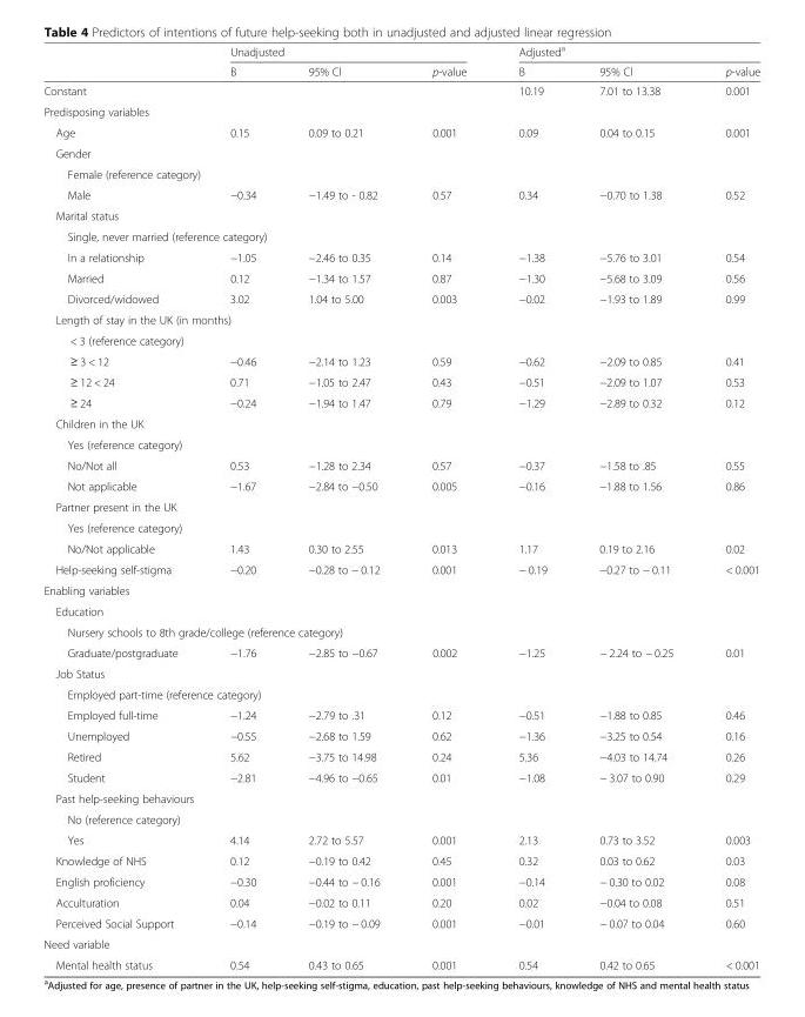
<table><thead><tr><td rowspan="2"></td><td colspan="3">Unadjusted</td><td colspan="3">Adjusted<sup>a</sup></td></tr><tr><td>Β</td><td>95% Cl</td><td>p-value</td><td>Β</td><td>95% Cl</td><td>p-value</td></tr></thead><tbody><tr><td>Constant</td><td></td><td></td><td></td><td>10.19</td><td>7.01 to 13.38</td><td>0.001</td></tr><tr><td colspan="7">Predisposing variables</td></tr><tr><td>Age</td><td>0.15</td><td>0.09 to 0.21</td><td>0.001</td><td>0.09</td><td>0.04 to 0.15</td><td>0.001</td></tr><tr><td colspan="7">Gender</td></tr><tr><td colspan="7">Female (reference category)</td></tr><tr><td>Male</td><td>−0.34</td><td>−1.49 to - 0.82</td><td>0.57</td><td>0.34</td><td>−0.70 to 1.38</td><td>0.52</td></tr><tr><td colspan="7">Marital status</td></tr><tr><td colspan="7">Single, never married (reference category)</td></tr><tr><td>In a relationship</td><td>−1.05</td><td>−2.46 to 0.35</td><td>0.14</td><td>−1.38</td><td>−5.76 to 3.01</td><td>0.54</td></tr><tr><td>Married</td><td>0.12</td><td>−1.34 to 1.57</td><td>0.87</td><td>−1.30</td><td>−5.68 to 3.09</td><td>0.56</td></tr><tr><td>Divorced/widowed</td><td>3.02</td><td>1.04 to 5.00</td><td>0.003</td><td>−0.02</td><td>−1.93 to 1.89</td><td>0.99</td></tr><tr><td colspan="7">Length of stay in the UK (in months)</td></tr><tr><td colspan="7">&lt; 3 (reference category)</td></tr><tr><td>≥ 3 &lt; 12</td><td>−0.46</td><td>−2.14 to 1.23</td><td>0.59</td><td>−0.62</td><td>−2.09 to 0.85</td><td>0.41</td></tr><tr><td>≥ 12 &lt; 24</td><td>0.71</td><td>−1.05 to 2.47</td><td>0.43</td><td>−0.51</td><td>−2.09 to 1.07</td><td>0.53</td></tr><tr><td>≥ 24</td><td>−0.24</td><td>−1.94 to 1.47</td><td>0.79</td><td>−1.29</td><td>−2.89 to 0.32</td><td>0.12</td></tr><tr><td colspan="7">Children in the UK</td></tr><tr><td colspan="7">Yes (reference category)</td></tr><tr><td>No/Not all</td><td>0.53</td><td>−1.28 to 2.34</td><td>0.57</td><td>−0.37</td><td>−1.58 to .85</td><td>0.55</td></tr><tr><td>Not applicable</td><td>−1.67</td><td>−2.84 to −0.50</td><td>0.005</td><td>−0.16</td><td>−1.88 to 1.56</td><td>0.86</td></tr><tr><td colspan="7">Partner present in the UK</td></tr><tr><td colspan="7">Yes (reference category)</td></tr><tr><td>No/Not applicable</td><td>1.43</td><td>0.30 to 2.55</td><td>0.013</td><td>1.17</td><td>0.19 to 2.16</td><td>0.02</td></tr><tr><td>Help-seeking self-stigma</td><td>−0.20</td><td>−0.28 to − 0.12</td><td>0.001</td><td>− 0.19</td><td>−0.27 to − 0.11</td><td>&lt; 0.001</td></tr><tr><td colspan="7">Enabling variables</td></tr><tr><td colspan="7">Education</td></tr><tr><td colspan="7">Nursery schools to 8th grade/college (reference category)</td></tr><tr><td>Graduate/postgraduate</td><td>−1.76</td><td>−2.85 to −0.67</td><td>0.002</td><td>−1.25</td><td>− 2.24 to − 0.25</td><td>0.01</td></tr><tr><td colspan="7">Job Status</td></tr><tr><td colspan="7">Employed part-time (reference category)</td></tr><tr><td>Employed full-time</td><td>−1.24</td><td>−2.79 to .31</td><td>0.12</td><td>−0.51</td><td>−1.88 to 0.85</td><td>0.46</td></tr><tr><td>Unemployed</td><td>−0.55</td><td>−2.68 to 1.59</td><td>0.62</td><td>−1.36</td><td>−3.25 to 0.54</td><td>0.16</td></tr><tr><td>Retired</td><td>5.62</td><td>−3.75 to 14.98</td><td>0.24</td><td>5.36</td><td>−4.03 to 14.74</td><td>0.26</td></tr><tr><td>Student</td><td>−2.81</td><td>−4.96 to −0.65</td><td>0.01</td><td>−1.08</td><td>− 3.07 to 0.90</td><td>0.29</td></tr><tr><td colspan="7">Past help-seeking behaviours</td></tr><tr><td colspan="7">No (reference category)</td></tr><tr><td>Yes</td><td>4.14</td><td>2.72 to 5.57</td><td>0.001</td><td>2.13</td><td>0.73 to 3.52</td><td>0.003</td></tr><tr><td>Knowledge of NHS</td><td>0.12</td><td>−0.19 to 0.42</td><td>0.45</td><td>0.32</td><td>0.03 to 0.62</td><td>0.03</td></tr><tr><td>English proficiency</td><td>−0.30</td><td>−0.44 to − 0.16</td><td>0.001</td><td>−0.14</td><td>− 0.30 to 0.02</td><td>0.08</td></tr><tr><td>Acculturation</td><td>0.04</td><td>−0.02 to 0.11</td><td>0.20</td><td>0.02</td><td>−0.04 to 0.08</td><td>0.51</td></tr><tr><td>Perceived Social Support</td><td>−0.14</td><td>−0.19 to − 0.09</td><td>0.001</td><td>−0.01</td><td>− 0.07 to 0.04</td><td>0.60</td></tr><tr><td colspan="7">Need variable</td></tr><tr><td>Mental health status</td><td>0.54</td><td>0.43 to 0.65</td><td>0.001</td><td>0.54</td><td>0.42 to 0.65</td><td>&lt; 0.001</td></tr></tbody></table>